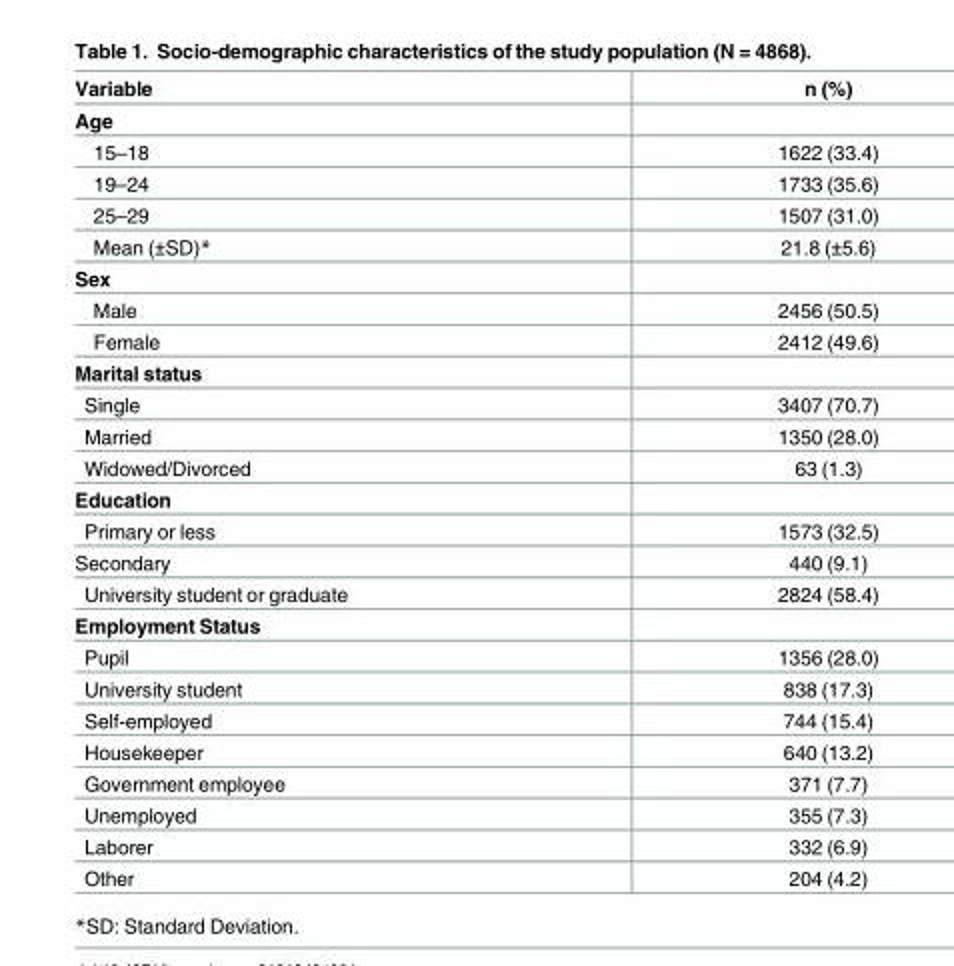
<table><thead><tr><td>Variable</td><td>n (%)</td></tr></thead><tbody><tr><td colspan="2">Age</td></tr><tr><td>15–18</td><td>1622 (33.4)</td></tr><tr><td>19–24</td><td>1733 (35.6)</td></tr><tr><td>25–29</td><td>1507 (31.0)</td></tr><tr><td>Mean (±SD)*</td><td>21.8 (±5.6)</td></tr><tr><td colspan="2">Sex</td></tr><tr><td>Male</td><td>2456 (50.5)</td></tr><tr><td>Female</td><td>2412 (49.6)</td></tr><tr><td colspan="2">Marital status</td></tr><tr><td>Single</td><td>3407 (70.7)</td></tr><tr><td>Married</td><td>1350 (28.0)</td></tr><tr><td>Widowed/Divorced</td><td>63 (1.3)</td></tr><tr><td colspan="2">Education</td></tr><tr><td>Primary or less</td><td>1573 (32.5)</td></tr><tr><td>Secondary</td><td>440 (9.1)</td></tr><tr><td>University student or graduate</td><td>2824 (58.4)</td></tr><tr><td colspan="2">Employment Status</td></tr><tr><td>Pupil</td><td>1356 (28.0)</td></tr><tr><td>University student</td><td>838 (17.3)</td></tr><tr><td>Self-employed</td><td>744 (15.4)</td></tr><tr><td>Housekeeper</td><td>640 (13.2)</td></tr><tr><td>Government employee</td><td>371 (7.7)</td></tr><tr><td>Unemployed</td><td>355 (7.3)</td></tr><tr><td>Laborer</td><td>332 (6.9)</td></tr><tr><td>Other</td><td>204 (4.2)</td></tr></tbody></table>